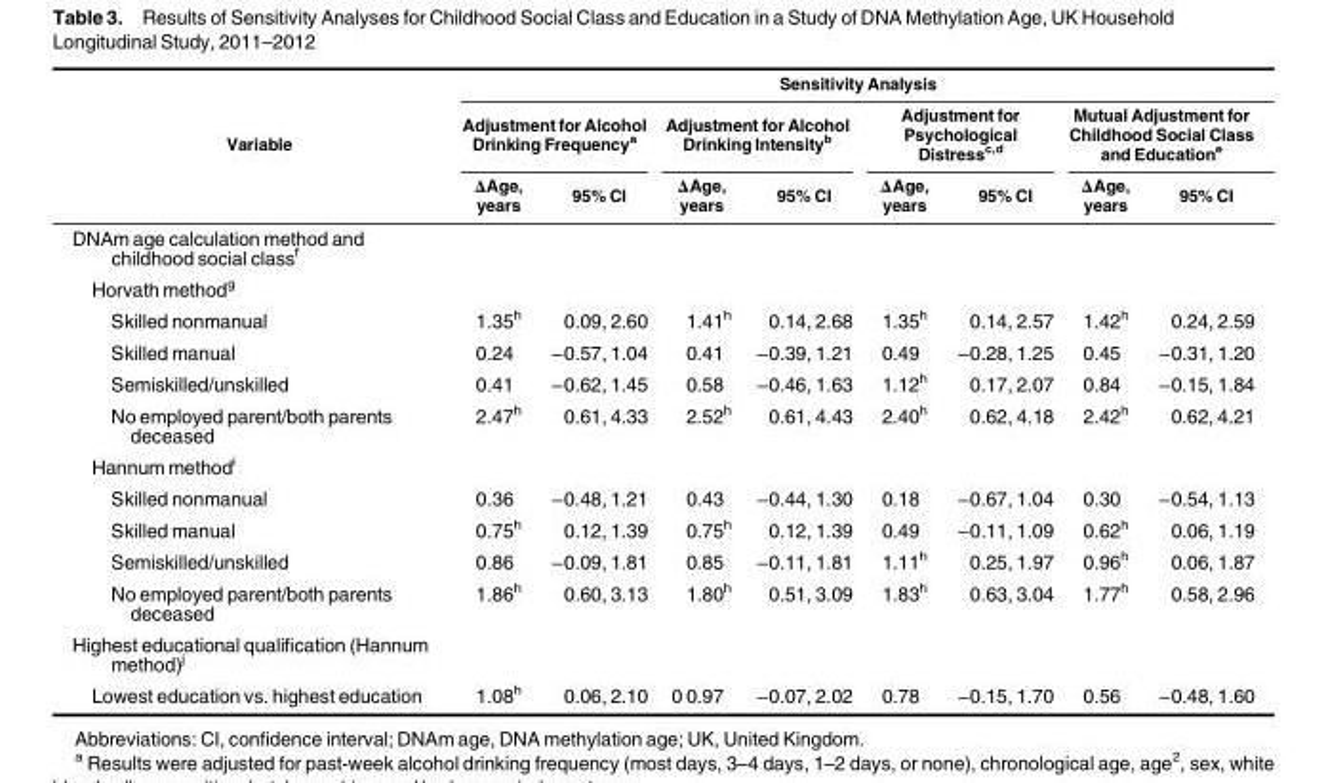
<table><thead><tr><td rowspan="3">Variable</td><td colspan="8">Sensitivity Analysis</td></tr><tr><td colspan="2">Adjustment for Alcohol Drinking Frequency<sup>a</sup></td><td colspan="2">Adjustment for Alcohol Drinking Intensity<sup>b</sup></td><td colspan="2">Adjustment for Psychological Distress<sup>c,d</sup></td><td colspan="2">Mutual Adjustment for Childhood Social Class and Education<sup>e</sup></td></tr><tr><td>ΔAge, years</td><td>95% CI</td><td>ΔAge, years</td><td>95% CI</td><td>ΔAge, years</td><td>95% CI</td><td>ΔAge, years</td><td>95% CI</td></tr></thead><tbody><tr><td colspan="9">DNAm age calculation method and childhood social class<sup>f</sup></td></tr><tr><td colspan="9">Horvath method<sup>g</sup></td></tr><tr><td>Skilled nonmanual</td><td>1.35<sup>h</sup></td><td>0.09, 2.60</td><td>1.41<sup>h</sup></td><td>0.14, 2.68</td><td>1.35<sup>h</sup></td><td>0.14, 2.57</td><td>1.42<sup>h</sup></td><td>0.24, 2.59</td></tr><tr><td>Skilled manual</td><td>0.24</td><td>−0.57, 1.04</td><td>0.41</td><td>−0.39, 1.21</td><td>0.49</td><td>−0.28, 1.25</td><td>0.45</td><td>−0.31, 1.20</td></tr><tr><td>Semiskilled/unskilled</td><td>0.41</td><td>−0.62, 1.45</td><td>0.58</td><td>−0.46, 1.63</td><td>1.12<sup>h</sup></td><td>0.17, 2.07</td><td>0.84</td><td>−0.15, 1.84</td></tr><tr><td>No employed parent/both parents deceased</td><td>2.47<sup>h</sup></td><td>0.61, 4.33</td><td>2.52<sup>h</sup></td><td>0.61, 4.43</td><td>2.40<sup>h</sup></td><td>0.62, 4.18</td><td>2.42<sup>h</sup></td><td>0.62, 4.21</td></tr><tr><td colspan="9">Hannum method<sup>i</sup></td></tr><tr><td>Skilled nonmanual</td><td>0.36</td><td>−0.48, 1.21</td><td>0.43</td><td>−0.44, 1.30</td><td>0.18</td><td>−0.67, 1.04</td><td>0.30</td><td>−0.54, 1.13</td></tr><tr><td>Skilled manual</td><td>0.75<sup>h</sup></td><td>0.12, 1.39</td><td>0.75<sup>h</sup></td><td>0.12, 1.39</td><td>0.49</td><td>−0.11, 1.09</td><td>0.62<sup>h</sup></td><td>0.06, 1.19</td></tr><tr><td>Semiskilled/unskilled</td><td>0.86</td><td>−0.09, 1.81</td><td>0.85</td><td>−0.11, 1.81</td><td>1.11<sup>h</sup></td><td>0.25, 1.97</td><td>0.96<sup>h</sup></td><td>0.06, 1.87</td></tr><tr><td>No employed parent/both parents deceased</td><td>1.86<sup>h</sup></td><td>0.60, 3.13</td><td>1.80<sup>h</sup></td><td>0.51, 3.09</td><td>1.83<sup>h</sup></td><td>0.63, 3.04</td><td>1.77<sup>h</sup></td><td>0.58, 2.96</td></tr><tr><td colspan="9">Highest educational qualification (Hannum method)<sup>j</sup></td></tr><tr><td>Lowest education vs. highest education</td><td>1.08<sup>h</sup></td><td>0.06, 2.10</td><td>0 0.97</td><td>−0.07, 2.02</td><td>0.78</td><td>−0.15, 1.70</td><td>0.56</td><td>−0.48, 1.60</td></tr></tbody></table>